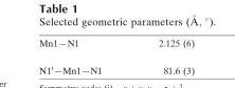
<table><tbody><tr><td>Mn1—N1</td><td>2.125 (6)</td></tr></tbody></table>